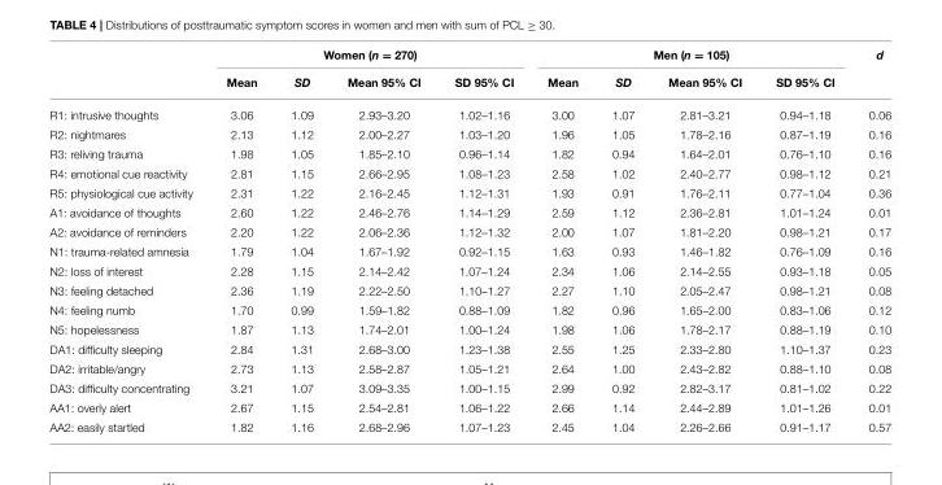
<table><thead><tr><td rowspan="2"></td><td colspan="4">Women (n = 270)</td><td colspan="4">Men (n = 105)</td><td rowspan="2">d</td></tr><tr><td>Mean</td><td>SD</td><td>Mean 95% CI</td><td>SD 95% CI</td><td>Mean</td><td>SD</td><td>Mean 95% CI</td><td>SD 95% CI</td></tr></thead><tbody><tr><td>R1: intrusive thoughts</td><td>3.06</td><td>1.09</td><td>2.93–3.20</td><td>1.02–1.16</td><td>3.00</td><td>1.07</td><td>2.81–3.21</td><td>0.94–1.18</td><td>0.06</td></tr><tr><td>R2: nightmares</td><td>2.13</td><td>1.12</td><td>2.00–2.27</td><td>1.03–1.20</td><td>1.96</td><td>1.05</td><td>1.78–2.16</td><td>0.87–1.19</td><td>0.16</td></tr><tr><td>R3: reliving trauma</td><td>1.98</td><td>1.05</td><td>1.85–2.10</td><td>0.96–1.14</td><td>1.82</td><td>0.94</td><td>1.64–2.01</td><td>0.76–1.10</td><td>0.16</td></tr><tr><td>R4: emotional cue reactivity</td><td>2.81</td><td>1.15</td><td>2.66–2.95</td><td>1.08–1.23</td><td>2.58</td><td>1.02</td><td>2.40–2.77</td><td>0.98–1.12</td><td>0.21</td></tr><tr><td>R5: physiological cue activity</td><td>2.31</td><td>1.22</td><td>2.16–2.45</td><td>1.12–1.31</td><td>1.93</td><td>0.91</td><td>1.76–2.11</td><td>0.77–1.04</td><td>0.36</td></tr><tr><td>A1: avoidance of thoughts</td><td>2.60</td><td>1.22</td><td>2.46–2.76</td><td>1.14–1.29</td><td>2.59</td><td>1.12</td><td>2.36–2.81</td><td>1.01–1.24</td><td>0.01</td></tr><tr><td>A2: avoidance of reminders</td><td>2.20</td><td>1.22</td><td>2.06–2.36</td><td>1.12–1.32</td><td>2.00</td><td>1.07</td><td>1.81–2.20</td><td>0.98–1.21</td><td>0.17</td></tr><tr><td>N1: trauma-related amnesia</td><td>1.79</td><td>1.04</td><td>1.67–1.92</td><td>0.92–1.15</td><td>1.63</td><td>0.93</td><td>1.46–1.82</td><td>0.76–1.09</td><td>0.16</td></tr><tr><td>N2: loss of interest</td><td>2.28</td><td>1.15</td><td>2.14–2.42</td><td>1.07–1.24</td><td>2.34</td><td>1.06</td><td>2.14–2.55</td><td>0.93–1.18</td><td>0.05</td></tr><tr><td>N3: feeling detached</td><td>2.36</td><td>1.19</td><td>2.22–2.50</td><td>1.10–1.27</td><td>2.27</td><td>1.10</td><td>2.05–2.47</td><td>0.98–1.21</td><td>0.08</td></tr><tr><td>N4: feeling numb</td><td>1.70</td><td>0.99</td><td>1.59–1.82</td><td>0.88–1.09</td><td>1.82</td><td>0.96</td><td>1.65–2.00</td><td>0.83–1.06</td><td>0.12</td></tr><tr><td>N5: hopelessness</td><td>1.87</td><td>1.13</td><td>1.74–2.01</td><td>1.00–1.24</td><td>1.98</td><td>1.06</td><td>1.78–2.17</td><td>0.88–1.19</td><td>0.10</td></tr><tr><td>DA1: difficulty sleeping</td><td>2.84</td><td>1.31</td><td>2.68–3.00</td><td>1.23–1.38</td><td>2.55</td><td>1.25</td><td>2.33–2.80</td><td>1.10–1.37</td><td>0.23</td></tr><tr><td>DA2: irritable/angry</td><td>2.73</td><td>1.13</td><td>2.58–2.87</td><td>1.05–1.21</td><td>2.64</td><td>1.00</td><td>2.43–2.82</td><td>0.88–1.10</td><td>0.08</td></tr><tr><td>DA3: difficulty concentrating</td><td>3.21</td><td>1.07</td><td>3.09–3.35</td><td>1.00–1.15</td><td>2.99</td><td>0.92</td><td>2.82–3.17</td><td>0.81–1.02</td><td>0.22</td></tr><tr><td>AA1: overly alert</td><td>2.67</td><td>1.15</td><td>2.54–2.81</td><td>1.06–1.22</td><td>2.66</td><td>1.14</td><td>2.44–2.89</td><td>1.01–1.26</td><td>0.01</td></tr><tr><td>AA2: easily startled</td><td>1.82</td><td>1.16</td><td>2.68–2.96</td><td>1.07–1.23</td><td>2.45</td><td>1.04</td><td>2.26–2.66</td><td>0.91–1.17</td><td>0.57</td></tr></tbody></table>